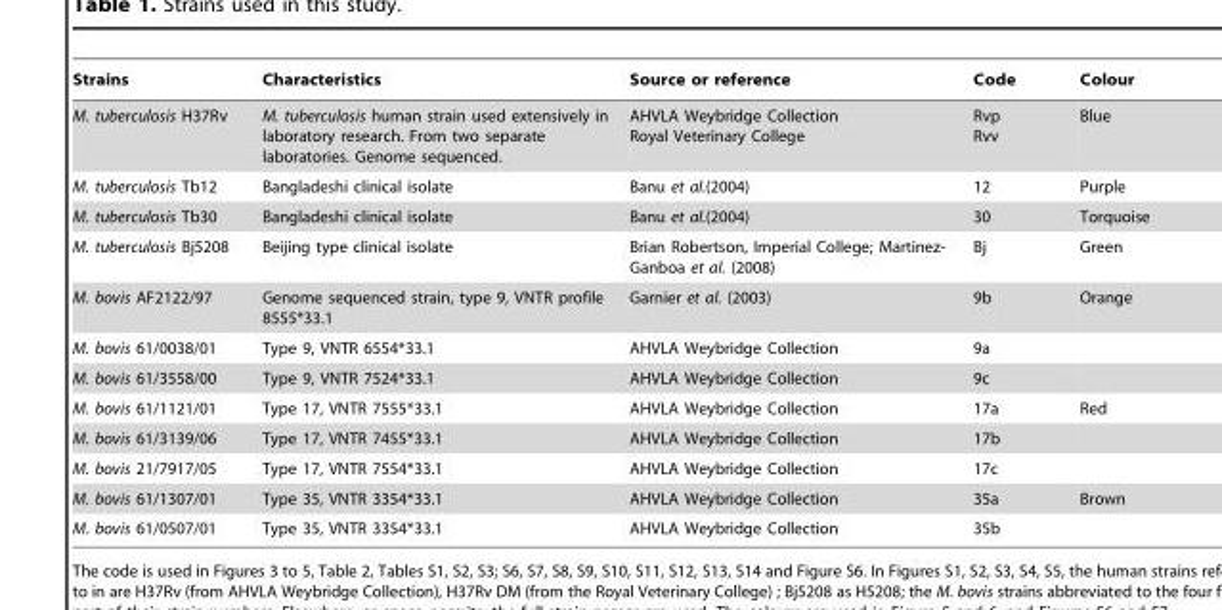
<table><thead><tr><td>Strains</td><td>Characteristics</td><td>Source or reference</td><td>Code</td><td>Colour</td></tr></thead><tbody><tr><td>M. tuberculosis H37Rv</td><td>M. tuberculosis human strain used extensively in laboratory research. From two separate laboratories. Genome sequenced.</td><td>AHVLA Weybridge Collection Royal Veterinary College</td><td>Rvp Rvv</td><td>Blue</td></tr><tr><td>M. tuberculosis Tb12</td><td>Bangladeshi clinical isolate</td><td>Banu et al.(2004)</td><td>12</td><td>Purple</td></tr><tr><td>M. tuberculosis Tb30</td><td>Bangladeshi clinical isolate</td><td>Banu et al.(2004)</td><td>30</td><td>Torquoise</td></tr><tr><td>M. tuberculosis Bj5208</td><td>Beijing type clinical isolate</td><td>Brian Robertson, Imperial College; Martinez- Ganboa et al. (2008)</td><td>Bj</td><td>Green</td></tr><tr><td>M. bovis AF2122/97</td><td>Genome sequenced strain, type 9, VNTR profile 8555*33.1</td><td>Garnier et al. (2003)</td><td>9b</td><td>Orange</td></tr><tr><td>M. bovis 61/0038/01</td><td>Type 9, VNTR 6554*33.1</td><td>AHVLA Weybridge Collection</td><td>9a</td><td></td></tr><tr><td>M. bovis 61/3558/00</td><td>Type 9, VNTR 7524*33.1</td><td>AHVLA Weybridge Collection</td><td>9c</td><td></td></tr><tr><td>M. bovis 61/1121/01</td><td>Type 17, VNTR 7555*33.1</td><td>AHVLA Weybridge Collection</td><td>17a</td><td>Red</td></tr><tr><td>M. bovis 61/3139/06</td><td>Type 17, VNTR 7455*33.1</td><td>AHVLA Weybridge Collection</td><td>17b</td><td></td></tr><tr><td>M. bovis 21/7917/05</td><td>Type 17, VNTR 7554*33.1</td><td>AHVLA Weybridge Collection</td><td>17c</td><td></td></tr><tr><td>M. bovis 61/1307/01</td><td>Type 35, VNTR 3354*33.1</td><td>AHVLA Weybridge Collection</td><td>35a</td><td>Brown</td></tr><tr><td>M. bovis 61/0507/01</td><td>Type 35, VNTR 3354*33.1</td><td>AHVLA Weybridge Collection</td><td>35b</td><td></td></tr></tbody></table>